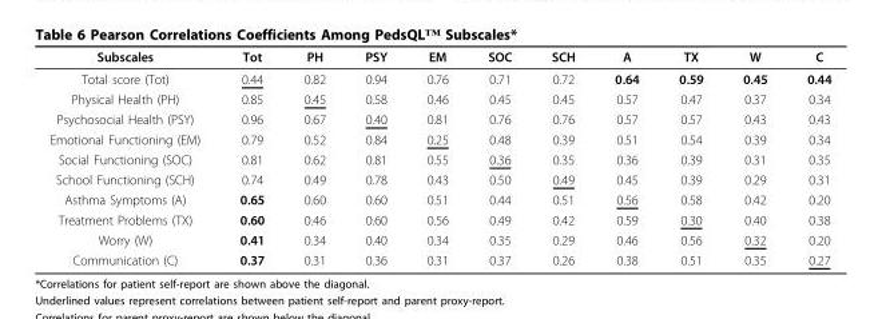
<table><thead><tr><td>Subscales</td><td>Tot</td><td>PH</td><td>PSY</td><td>EM</td><td>SOC</td><td>SCH</td><td>A</td><td>TX</td><td>W</td><td>C</td></tr></thead><tbody><tr><td>Total score (Tot)</td><td>0.44</td><td>0.82</td><td>0.94</td><td>0.76</td><td>0.71</td><td>0.72</td><td>0.64</td><td>0.59</td><td>0.45</td><td>0.44</td></tr><tr><td>Physical Health (PH)</td><td>0.85</td><td>0.45</td><td>0.58</td><td>0.46</td><td>0.45</td><td>0.45</td><td>0.57</td><td>0.47</td><td>0.37</td><td>0.34</td></tr><tr><td>Psychosocial Health (PSY)</td><td>0.96</td><td>0.67</td><td>0.40</td><td>0.81</td><td>0.76</td><td>0.76</td><td>0.57</td><td>0.57</td><td>0.43</td><td>0.43</td></tr><tr><td>Emotional Functioning (EM)</td><td>0.79</td><td>0.52</td><td>0.84</td><td>0.25</td><td>0.48</td><td>0.39</td><td>0.51</td><td>0.54</td><td>0.39</td><td>0.34</td></tr><tr><td>Social Functioning (SOC)</td><td>0.81</td><td>0.62</td><td>0.81</td><td>0.55</td><td>0.36</td><td>0.35</td><td>0.36</td><td>0.39</td><td>0.31</td><td>0.35</td></tr><tr><td>School Functioning (SCH)</td><td>0.74</td><td>0.49</td><td>0.78</td><td>0.43</td><td>0.50</td><td>0.49</td><td>0.45</td><td>0.39</td><td>0.29</td><td>0.31</td></tr><tr><td>Asthma Symptoms (A)</td><td>0.65</td><td>0.60</td><td>0.60</td><td>0.51</td><td>0.44</td><td>0.51</td><td>0.56</td><td>0.58</td><td>0.42</td><td>0.20</td></tr><tr><td>Treatment Problems (TX)</td><td>0.60</td><td>0.46</td><td>0.60</td><td>0.56</td><td>0.49</td><td>0.42</td><td>0.59</td><td>0.30</td><td>0.40</td><td>0.38</td></tr><tr><td>Worry (W)</td><td>0.41</td><td>0.34</td><td>0.40</td><td>0.34</td><td>0.35</td><td>0.29</td><td>0.46</td><td>0.56</td><td>0.32</td><td>0.20</td></tr><tr><td>Communication (C)</td><td>0.37</td><td>0.31</td><td>0.36</td><td>0.31</td><td>0.37</td><td>0.26</td><td>0.38</td><td>0.51</td><td>0.35</td><td>0.27</td></tr></tbody></table>